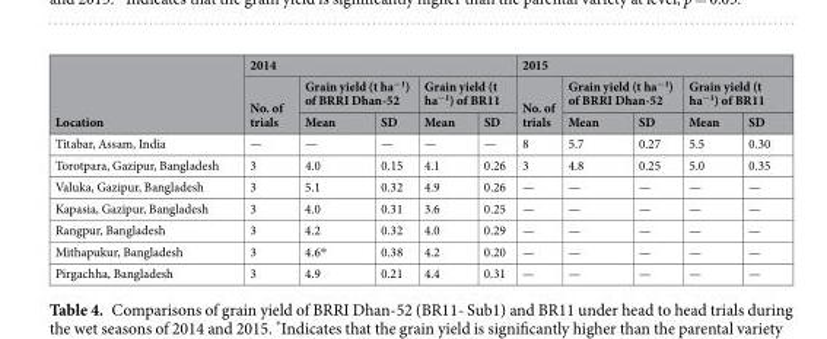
<table><thead><tr><td rowspan="3">Location</td><td colspan="5">2014</td><td colspan="5">2015</td></tr><tr><td rowspan="2">No. of trials</td><td colspan="2">Grain yield (t ha<sup>−1</sup>) of BRRI Dhan-52</td><td colspan="2">Grain yield (t ha<sup>−1</sup>) of BR11</td><td rowspan="2">No. of trials</td><td colspan="2">Grain yield (t ha<sup>−1</sup>) of BRRI Dhan-52</td><td colspan="2">Grain yield (t ha<sup>−1</sup>) of BR11</td></tr><tr><td>Mean</td><td>SD</td><td>Mean</td><td>SD</td><td>Mean</td><td>SD</td><td>Mean</td><td>SD</td></tr></thead><tbody><tr><td>Titabar, Assam, India</td><td>—</td><td>—</td><td>—</td><td>—</td><td>—</td><td>8</td><td>5.7</td><td>0.27</td><td>5.5</td><td>0.30</td></tr><tr><td>Torotpara, Gazipur, Bangladesh</td><td>3</td><td>4.0</td><td>0.15</td><td>4.1</td><td>0.26</td><td>3</td><td>4.8</td><td>0.25</td><td>5.0</td><td>0.35</td></tr><tr><td>Valuka, Gazipur, Bangladesh</td><td>3</td><td>5.1</td><td>0.32</td><td>4.9</td><td>0.26</td><td>—</td><td>—</td><td>—</td><td>—</td><td>—</td></tr><tr><td>Kapasia, Gazipur, Bangladesh</td><td>3</td><td>4.0</td><td>0.31</td><td>3.6</td><td>0.25</td><td>—</td><td>—</td><td>—</td><td>—</td><td>—</td></tr><tr><td>Rangpur, Bangladesh</td><td>3</td><td>4.2</td><td>0.32</td><td>4.0</td><td>0.29</td><td>—</td><td>—</td><td>—</td><td>—</td><td>—</td></tr><tr><td>Mithapukur, Bangladesh</td><td>3</td><td>4.6*</td><td>0.38</td><td>4.2</td><td>0.20</td><td>—</td><td>—</td><td>—</td><td>—</td><td>—</td></tr><tr><td>Pirgachha, Bangladesh</td><td>3</td><td>4.9</td><td>0.21</td><td>4.4</td><td>0.31</td><td>—</td><td>—</td><td>—</td><td>—</td><td>—</td></tr></tbody></table>